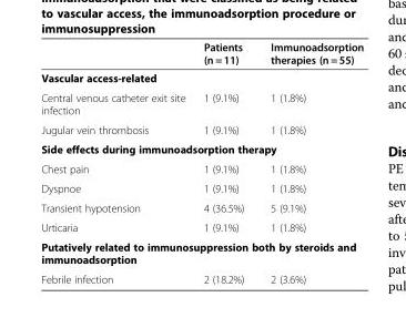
<table><thead><tr><td></td><td>Patients (n = 11)</td><td>Immunoadsorption therapies (n = 55)</td></tr></thead><tbody><tr><td colspan="3">Vascular access-related</td></tr><tr><td>Central venous catheter exit site infection</td><td>1 (9.1%)</td><td>1 (1.8%)</td></tr><tr><td>Jugular vein thrombosis</td><td>1 (9.1%)</td><td>1 (1.8%)</td></tr><tr><td colspan="3">Side effects during immunoadsorption therapy</td></tr><tr><td>Chest pain</td><td>1 (9.1%)</td><td>1 (1.8%)</td></tr><tr><td>Dyspnoe</td><td>1 (9.1%)</td><td>1 (1.8%)</td></tr><tr><td>Transient hypotension</td><td>4 (36.5%)</td><td>5 (9.1%)</td></tr><tr><td>Urticaria</td><td>1 (9.1%)</td><td>1 (1.8%)</td></tr><tr><td colspan="3">Putatively related to immunosuppression both by steroids and immunoadsorption</td></tr><tr><td>Febrile infection</td><td>2 (18.2%)</td><td>2 (3.6%)</td></tr></tbody></table>